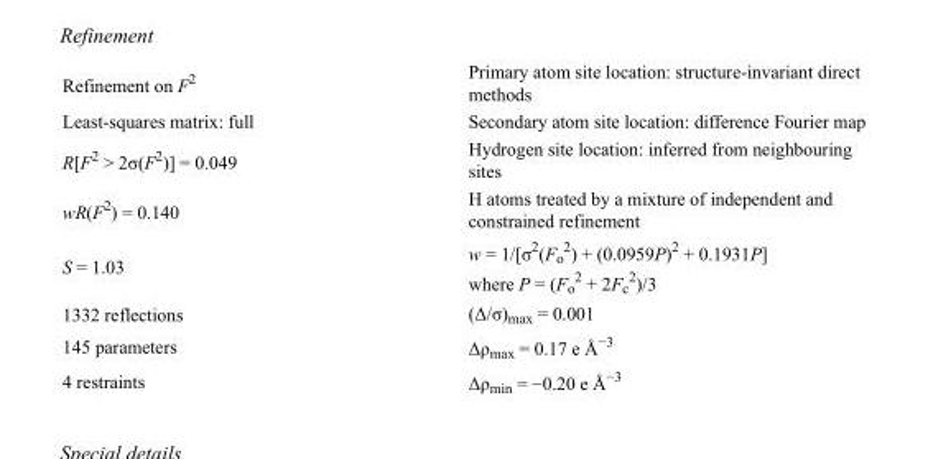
<table><tbody><tr><td>Refinement on F<sup>2</sup></td><td>Primary atom site location: structure-invariant direct methods</td></tr><tr><td>Least-squares matrix: full</td><td>Secondary atom site location: difference Fourier map</td></tr><tr><td>R[F<sup>2</sup> &gt; 2σ(F<sup>2</sup>)] = 0.049</td><td>Hydrogen site location: inferred from neighbouring sites</td></tr><tr><td>wR(F<sup>2</sup>) = 0.140</td><td>H atoms treated by a mixture of independent and constrained refinement</td></tr><tr><td>S = 1.03</td><td>w = 1/[σ<sup>2</sup>(F<sub>o</sub> <sup>2</sup>) + (0.0959P)<sup>2</sup> + 0.1931P] where P = (F<sub>o</sub> <sup>2</sup> + 2F<sub>c</sub> <sup>2</sup>)/3</td></tr><tr><td>1332 reflections</td><td>(Δ/σ)<sub>max</sub> = 0.001</td></tr><tr><td>145 parameters</td><td>Δρ<sub>max</sub> = 0.17 e Å<sup>−3</sup></td></tr><tr><td>4 restraints</td><td>Δρ<sub>min</sub> = −0.20 e Å<sup>−3</sup></td></tr></tbody></table>